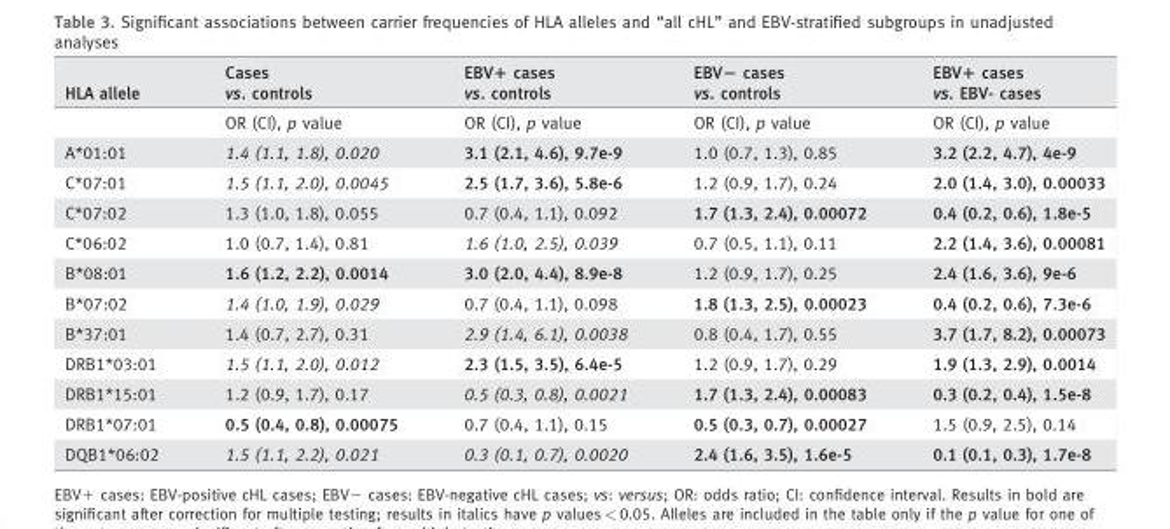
<table><thead><tr><td>HLA allele</td><td>Cases vs. controls</td><td>EBV+ cases vs. controls</td><td>EBV− cases vs. controls</td><td>EBV+ cases vs. EBV- cases</td></tr></thead><tbody><tr><td></td><td>OR (CI), p value</td><td>OR (CI), p value</td><td>OR (CI), p value</td><td>OR (CI), p value</td></tr><tr><td>A*01:01</td><td>1.4 (1.1, 1.8), 0.020</td><td>3.1 (2.1, 4.6), 9.7e-9</td><td>1.0 (0.7, 1.3), 0.85</td><td>3.2 (2.2, 4.7), 4e-9</td></tr><tr><td>C*07:01</td><td>1.5 (1.1, 2.0), 0.0045</td><td>2.5 (1.7, 3.6), 5.8e-6</td><td>1.2 (0.9, 1.7), 0.24</td><td>2.0 (1.4, 3.0), 0.00033</td></tr><tr><td>C*07:02</td><td>1.3 (1.0, 1.8), 0.055</td><td>0.7 (0.4, 1.1), 0.092</td><td>1.7 (1.3, 2.4), 0.00072</td><td>0.4 (0.2, 0.6), 1.8e-5</td></tr><tr><td>C*06:02</td><td>1.0 (0.7, 1.4), 0.81</td><td>1.6 (1.0, 2.5), 0.039</td><td>0.7 (0.5, 1.1), 0.11</td><td>2.2 (1.4, 3.6), 0.00081</td></tr><tr><td>B*08:01</td><td>1.6 (1.2, 2.2), 0.0014</td><td>3.0 (2.0, 4.4), 8.9e-8</td><td>1.2 (0.9, 1.7), 0.25</td><td>2.4 (1.6, 3.6), 9e-6</td></tr><tr><td>B*07:02</td><td>1.4 (1.0, 1.9), 0.029</td><td>0.7 (0.4, 1.1), 0.098</td><td>1.8 (1.3, 2.5), 0.00023</td><td>0.4 (0.2, 0.6), 7.3e-6</td></tr><tr><td>B*37:01</td><td>1.4 (0.7, 2.7), 0.31</td><td>2.9 (1.4, 6.1), 0.0038</td><td>0.8 (0.4, 1.7), 0.55</td><td>3.7 (1.7, 8.2), 0.00073</td></tr><tr><td>DRB1*03:01</td><td>1.5 (1.1, 2.0), 0.012</td><td>2.3 (1.5, 3.5), 6.4e-5</td><td>1.2 (0.9, 1.7), 0.29</td><td>1.9 (1.3, 2.9), 0.0014</td></tr><tr><td>DRB1*15:01</td><td>1.2 (0.9, 1.7), 0.17</td><td>0.5 (0.3, 0.8), 0.0021</td><td>1.7 (1.3, 2.4), 0.00083</td><td>0.3 (0.2, 0.4), 1.5e-8</td></tr><tr><td>DRB1*07:01</td><td>0.5 (0.4, 0.8), 0.00075</td><td>0.7 (0.4, 1.1), 0.15</td><td>0.5 (0.3, 0.7), 0.00027</td><td>1.5 (0.9, 2.5), 0.14</td></tr><tr><td>DQB1*06:02</td><td>1.5 (1.1, 2.2), 0.021</td><td>0.3 (0.1, 0.7), 0.0020</td><td>2.4 (1.6, 3.5), 1.6e-5</td><td>0.1 (0.1, 0.3), 1.7e-8</td></tr></tbody></table>